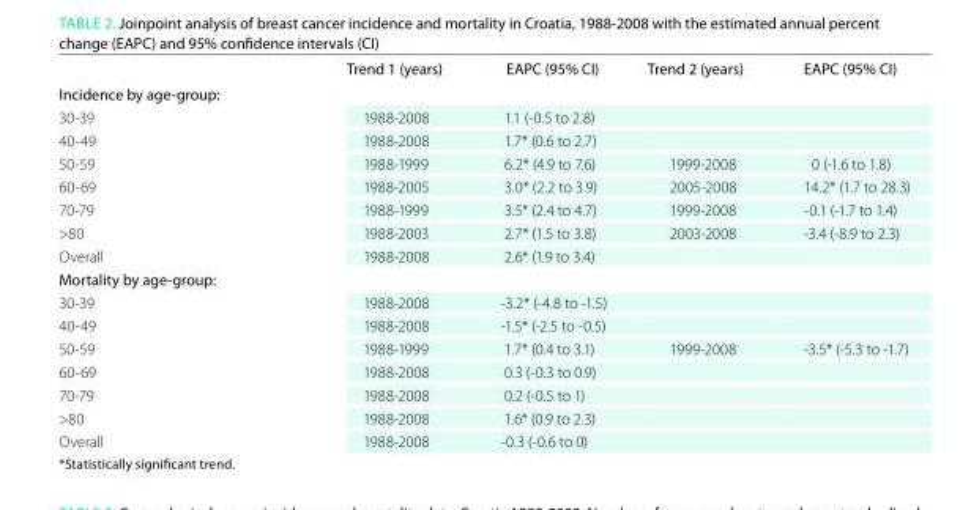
<table><thead><tr><td></td><td>Trend 1 (years)</td><td>eAPC (95% CI)</td><td>Trend 2 (years)</td><td>eAPC (95% CI)</td></tr></thead><tbody><tr><td colspan="5">Incidence by age-group:</td></tr><tr><td>30-39</td><td>1988-2008</td><td>1.1 (-0.5 to 2.8)</td><td></td><td></td></tr><tr><td>40-49</td><td>1988-2008</td><td>1.7* (0.6 to 2.7)</td><td></td><td></td></tr><tr><td>50-59</td><td>1988-1999</td><td>6.2* (4.9 to 7.6)</td><td>1999-2008</td><td>0 (-1.6 to 1.8)</td></tr><tr><td>60-69</td><td>1988-2005</td><td>3.0* (2.2 to 3.9)</td><td>2005-2008</td><td>14.2* (1.7 to 28.3)</td></tr><tr><td>70-79</td><td>1988-1999</td><td>3.5* (2.4 to 4.7)</td><td>1999-2008</td><td>-0.1 (-1.7 to 1.4)</td></tr><tr><td>&gt;80</td><td>1988-2003</td><td>2.7* (1.5 to 3.8)</td><td>2003-2008</td><td>-3.4 (-8.9 to 2.3)</td></tr><tr><td>Overall</td><td>1988-2008</td><td>2.6* (1.9 to 3.4)</td><td></td><td></td></tr><tr><td colspan="5">Mortality by age-group:</td></tr><tr><td>30-39</td><td>1988-2008</td><td>-3.2* (-4.8 to -1.5)</td><td></td><td></td></tr><tr><td>40-49</td><td>1988-2008</td><td>-1.5* (-2.5 to -0.5)</td><td></td><td></td></tr><tr><td>50-59</td><td>1988-1999</td><td>1.7* (0.4 to 3.1)</td><td>1999-2008</td><td>-3.5* (-5.3 to -1.7)</td></tr><tr><td>60-69</td><td>1988-2008</td><td>0.3 (-0.3 to 0.9)</td><td></td><td></td></tr><tr><td>70-79</td><td>1988-2008</td><td>0.2 (-0.5 to 1)</td><td></td><td></td></tr><tr><td>&gt;80</td><td>1988-2008</td><td>1.6* (0.9 to 2.3)</td><td></td><td></td></tr><tr><td>Overall</td><td>1988-2008</td><td>-0.3 (-0.6 to 0)</td><td></td><td></td></tr></tbody></table>